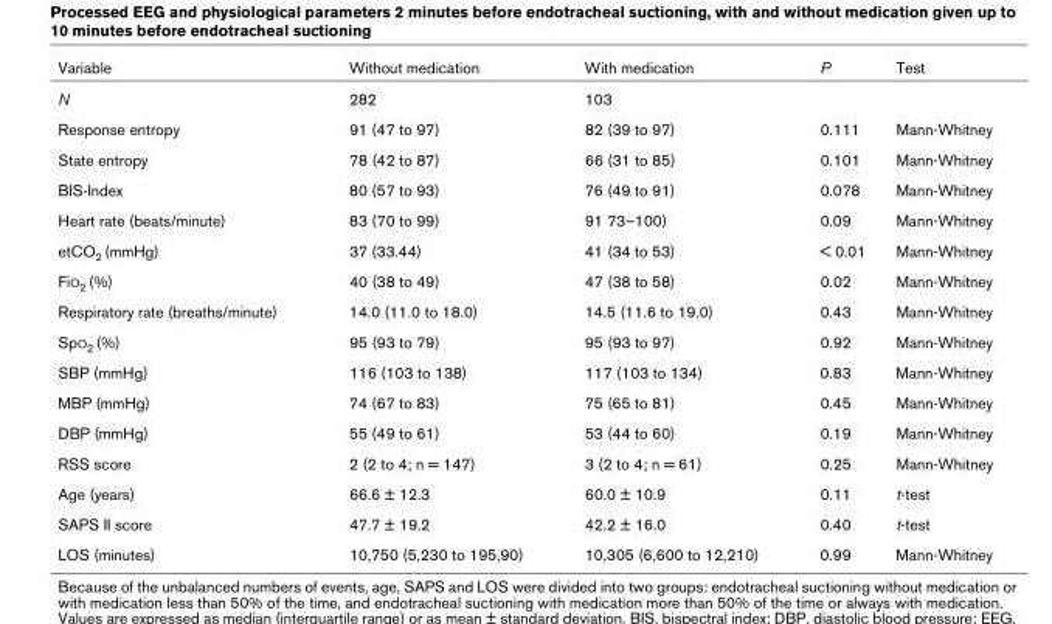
<table><thead><tr><td>Variable</td><td>Without medication</td><td>With medication</td><td>P</td><td>Test</td></tr></thead><tbody><tr><td>N</td><td>282</td><td>103</td><td></td><td></td></tr><tr><td>Response entropy</td><td>91 (47 to 97)</td><td>82 (39 to 97)</td><td>0.111</td><td>Mann-Whitney</td></tr><tr><td>State entropy</td><td>78 (42 to 87)</td><td>66 (31 to 85)</td><td>0.101</td><td>Mann-Whitney</td></tr><tr><td>BIS-Index</td><td>80 (57 to 93)</td><td>76 (49 to 91)</td><td>0.078</td><td>Mann-Whitney</td></tr><tr><td>Heart rate (beats/minute)</td><td>83 (70 to 99)</td><td>91 73–100)</td><td>0.09</td><td>Mann-Whitney</td></tr><tr><td>etCO<sub>2</sub> (mmHg)</td><td>37 (33.44)</td><td>41 (34 to 53)</td><td>&lt; 0.01</td><td>Mann-Whitney</td></tr><tr><td>FiO<sub>2</sub> (%)</td><td>40 (38 to 49)</td><td>47 (38 to 58)</td><td>0.02</td><td>Mann-Whitney</td></tr><tr><td>Respiratory rate (breaths/minute)</td><td>14.0 (11.0 to 18.0)</td><td>14.5 (11.6 to 19.0)</td><td>0.43</td><td>Mann-Whitney</td></tr><tr><td>SpO<sub>2</sub> (%)</td><td>95 (93 to 79)</td><td>95 (93 to 97)</td><td>0.92</td><td>Mann-Whitney</td></tr><tr><td>SBP (mmHg)</td><td>116 (103 to 138)</td><td>117 (103 to 134)</td><td>0.83</td><td>Mann-Whitney</td></tr><tr><td>MBP (mmHg)</td><td>74 (67 to 83)</td><td>75 (65 to 81)</td><td>0.45</td><td>Mann-Whitney</td></tr><tr><td>DBP (mmHg)</td><td>55 (49 to 61)</td><td>53 (44 to 60)</td><td>0.19</td><td>Mann-Whitney</td></tr><tr><td>RSS score</td><td>2 (2 to 4; n = 147)</td><td>3 (2 to 4; n = 61)</td><td>0.25</td><td>Mann-Whitney</td></tr><tr><td>Age (years)</td><td>66.6 ± 12.3</td><td>60.0 ± 10.9</td><td>0.11</td><td>t-test</td></tr><tr><td>SAPS II score</td><td>47.7 ± 19.2</td><td>42.2 ± 16.0</td><td>0.40</td><td>t-test</td></tr><tr><td>LOS (minutes)</td><td>10,750 (5,230 to 195,90)</td><td>10,305 (6,600 to 12,210)</td><td>0.99</td><td>Mann-Whitney</td></tr></tbody></table>